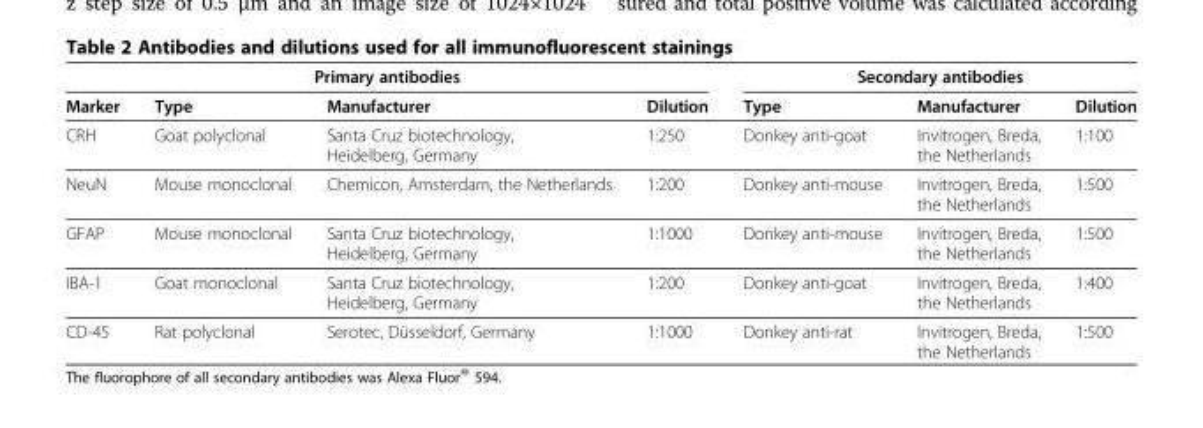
<table><thead><tr><td colspan="4">Primary antibodies</td><td colspan="3">Secondary antibodies</td></tr><tr><td>Marker</td><td>Type</td><td>Manufacturer</td><td>Dilution</td><td>Type</td><td>Manufacturer</td><td>Dilution</td></tr></thead><tbody><tr><td>CRH</td><td>Goat polyclonal</td><td>Santa Cruz biotechnology, Heidelberg, Germany</td><td>1:250</td><td>Donkey anti-goat</td><td>Invitrogen, Breda, the Netherlands</td><td>1:100</td></tr><tr><td>NeuN</td><td>Mouse monoclonal</td><td>Chemicon, Amsterdam, the Netherlands</td><td>1:200</td><td>Donkey anti-mouse</td><td>Invitrogen, Breda, the Netherlands</td><td>1:500</td></tr><tr><td>GFAP</td><td>Mouse monoclonal</td><td>Santa Cruz biotechnology, Heidelberg, Germany</td><td>1:1000</td><td>Donkey anti-mouse</td><td>Invitrogen, Breda, the Netherlands</td><td>1:500</td></tr><tr><td>IBA-1</td><td>Goat monoclonal</td><td>Santa Cruz biotechnology, Heidelberg, Germany</td><td>1:200</td><td>Donkey anti-goat</td><td>Invitrogen, Breda, the Netherlands</td><td>1:400</td></tr><tr><td>CD-45</td><td>Rat polyclonal</td><td>Serotec, Düsseldorf, Germany</td><td>1:1000</td><td>Donkey anti-rat</td><td>Invitrogen, Breda, the Netherlands</td><td>1:500</td></tr></tbody></table>